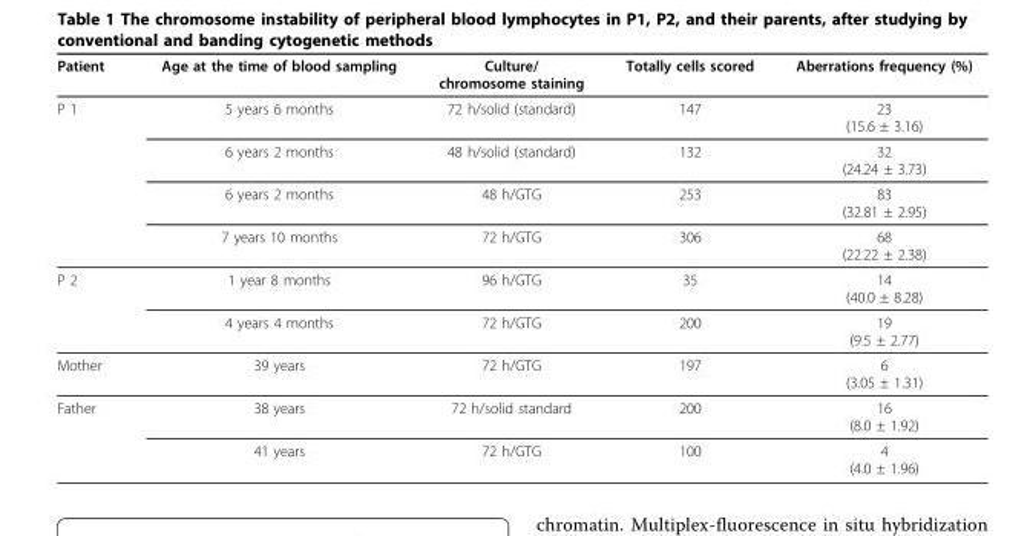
<table><thead><tr><td>Patient</td><td>Age at the time of blood sampling</td><td>Culture/ chromosome staining</td><td>Totally cells scored</td><td>Aberrations frequency (%)</td></tr></thead><tbody><tr><td rowspan="4">P 1</td><td>5 years 6 months</td><td>72 h/solid (standard)</td><td>147</td><td>23 (15.6 ± 3.16)</td></tr><tr><td>6 years 2 months</td><td>48 h/solid (standard)</td><td>132</td><td>32 (24.24 ± 3.73)</td></tr><tr><td>6 years 2 months</td><td>48 h/GTG</td><td>253</td><td>83 (32.81 ± 2.95)</td></tr><tr><td>7 years 10 months</td><td>72 h/GTG</td><td>306</td><td>68 (22.22 ± 2.38)</td></tr><tr><td rowspan="2">P 2</td><td>1 year 8 months</td><td>96 h/GTG</td><td>35</td><td>14 (40.0 ± 8.28)</td></tr><tr><td>4 years 4 months</td><td>72 h/GTG</td><td>200</td><td>19 (9.5 ± 2.77)</td></tr><tr><td>Mother</td><td>39 years</td><td>72 h/GTG</td><td>197</td><td>6 (3.05 ± 1.31)</td></tr><tr><td rowspan="2">Father</td><td>38 years</td><td>72 h/solid standard</td><td>200</td><td>16 (8.0 ± 1.92)</td></tr><tr><td>41 years</td><td>72 h/GTG</td><td>100</td><td>4 (4.0 ± 1.96)</td></tr></tbody></table>